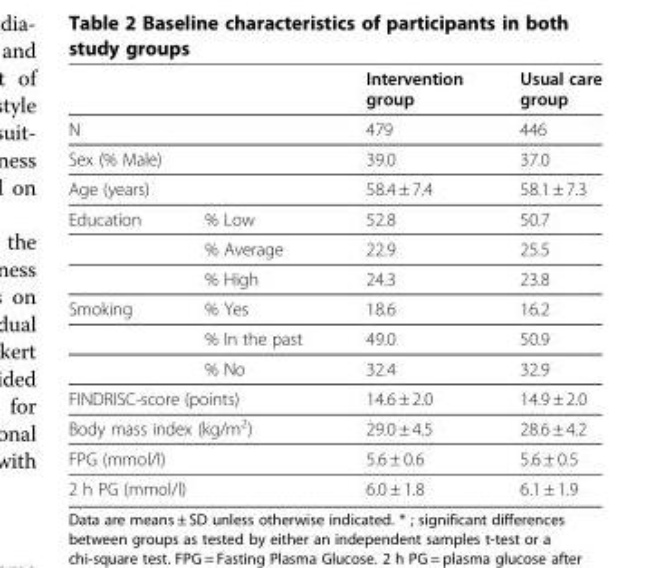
<table><thead><tr><td></td><td></td><td>Intervention group</td><td>Usual care group</td></tr></thead><tbody><tr><td colspan="2">N</td><td>479</td><td>446</td></tr><tr><td colspan="2">Sex (% Male)</td><td>39.0</td><td>37.0</td></tr><tr><td colspan="2">Age (years)</td><td>58.4 ± 7.4</td><td>58.1 ± 7.3</td></tr><tr><td rowspan="3">Education</td><td>% Low</td><td>52.8</td><td>50.7</td></tr><tr><td>% Average</td><td>22.9</td><td>25.5</td></tr><tr><td>% High</td><td>24.3</td><td>23.8</td></tr><tr><td rowspan="3">Smoking</td><td>% Yes</td><td>18.6</td><td>16.2</td></tr><tr><td>% In the past</td><td>49.0</td><td>50.9</td></tr><tr><td>% No</td><td>32.4</td><td>32.9</td></tr><tr><td colspan="2">FINDRISC-score (points)</td><td>14.6 ± 2.0</td><td>14.9 ± 2.0</td></tr><tr><td colspan="2">Body mass index (kg/m<sup>2</sup>)</td><td>29.0 ± 4.5</td><td>28.6 ± 4.2</td></tr><tr><td colspan="2">FPG (mmol/l)</td><td>5.6 ± 0.6</td><td>5.6 ± 0.5</td></tr><tr><td colspan="2">2 h PG (mmol/l)</td><td>6.0 ± 1.8</td><td>6.1 ± 1.9</td></tr></tbody></table>